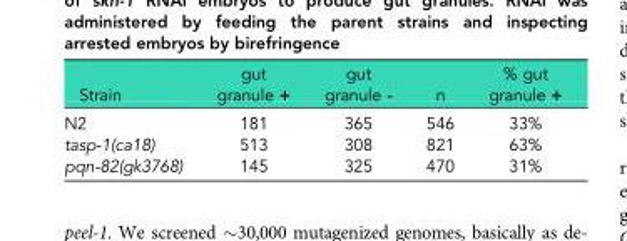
<table><thead><tr><td>Strain</td><td>gut granule +</td><td>gut granule -</td><td>n</td><td>% gut granule +</td></tr></thead><tbody><tr><td>N2</td><td>181</td><td>365</td><td>546</td><td>33%</td></tr><tr><td>tasp-1(ca18)</td><td>513</td><td>308</td><td>821</td><td>63%</td></tr><tr><td>pqn-82(gk3768)</td><td>145</td><td>325</td><td>470</td><td>31%</td></tr></tbody></table>